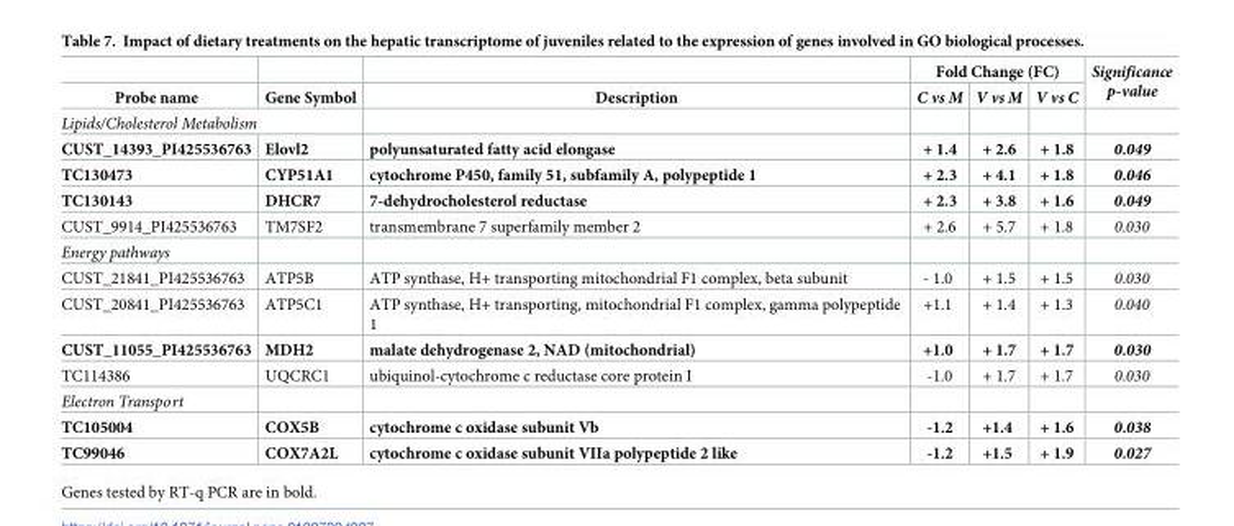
<table><thead><tr><td rowspan="2">Probe name</td><td rowspan="2">Gene Symbol</td><td rowspan="2">Description</td><td colspan="3">Fold Change (FC)</td><td rowspan="2">Significance p-value</td></tr><tr><td>C vs M</td><td>V vs M</td><td>V vs C</td></tr></thead><tbody><tr><td colspan="7">Lipids/Cholesterol Metabolism</td></tr><tr><td>CUST_14393_PI425536763</td><td>Elovl2</td><td>polyunsaturated fatty acid elongase</td><td>+ 1.4</td><td>+ 2.6</td><td>+ 1.8</td><td>0.049</td></tr><tr><td>TC130473</td><td>CYP51A1</td><td>cytochrome P450, family 51, subfamily A, polypeptide 1</td><td>+ 2.3</td><td>+ 4.1</td><td>+ 1.8</td><td>0.046</td></tr><tr><td>TC130143</td><td>DHCR7</td><td>7-dehydrocholesterol reductase</td><td>+ 2.3</td><td>+ 3.8</td><td>+ 1.6</td><td>0.049</td></tr><tr><td>CUST_9914_PI425536763</td><td>TM7SF2</td><td>transmembrane 7 superfamily member 2</td><td>+ 2.6</td><td>+ 5.7</td><td>+ 1.8</td><td>0.030</td></tr><tr><td colspan="7">Energy pathways</td></tr><tr><td>CUST_21841_PI425536763</td><td>ATP5B</td><td>ATP synthase, H+ transporting mitochondrial F1 complex, beta subunit</td><td>- 1.0</td><td>+ 1.5</td><td>+ 1.5</td><td>0.030</td></tr><tr><td>CUST_20841_PI425536763</td><td>ATP5C1</td><td>ATP synthase, H+ transporting, mitochondrial F1 complex, gamma polypeptide 1</td><td>+1.1</td><td>+ 1.4</td><td>+ 1.3</td><td>0.040</td></tr><tr><td>CUST_11055_PI425536763</td><td>MDH2</td><td>malate dehydrogenase 2, NAD (mitochondrial)</td><td>+1.0</td><td>+ 1.7</td><td>+ 1.7</td><td>0.030</td></tr><tr><td>TC114386</td><td>UQCRC1</td><td>ubiquinol-cytochrome c reductase core protein I</td><td>-1.0</td><td>+ 1.7</td><td>+ 1.7</td><td>0.030</td></tr><tr><td colspan="7">Electron Transport</td></tr><tr><td>TC105004</td><td>COX5B</td><td>cytochrome c oxidase subunit Vb</td><td>-1.2</td><td>+1.4</td><td>+ 1.6</td><td>0.038</td></tr><tr><td>TC99046</td><td>COX7A2L</td><td>cytochrome c oxidase subunit VIIa polypeptide 2 like</td><td>-1.2</td><td>+1.5</td><td>+ 1.9</td><td>0.027</td></tr></tbody></table>